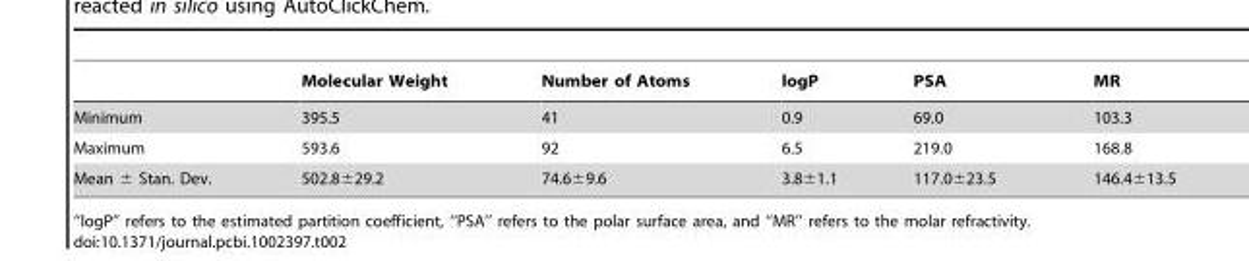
<table><thead><tr><td></td><td>Molecular Weight</td><td>Number of Atoms</td><td>logP</td><td>PSA</td><td>MR</td></tr></thead><tbody><tr><td>Minimum</td><td>395.5</td><td>41</td><td>0.9</td><td>69.0</td><td>103.3</td></tr><tr><td>Maximum</td><td>593.6</td><td>92</td><td>6.5</td><td>219.0</td><td>168.8</td></tr><tr><td>Mean ± Stan. Dev.</td><td>502.8±29.2</td><td>74.6±9.6</td><td>3.8±1.1</td><td>117.0±23.5</td><td>146.4±13.5</td></tr></tbody></table>